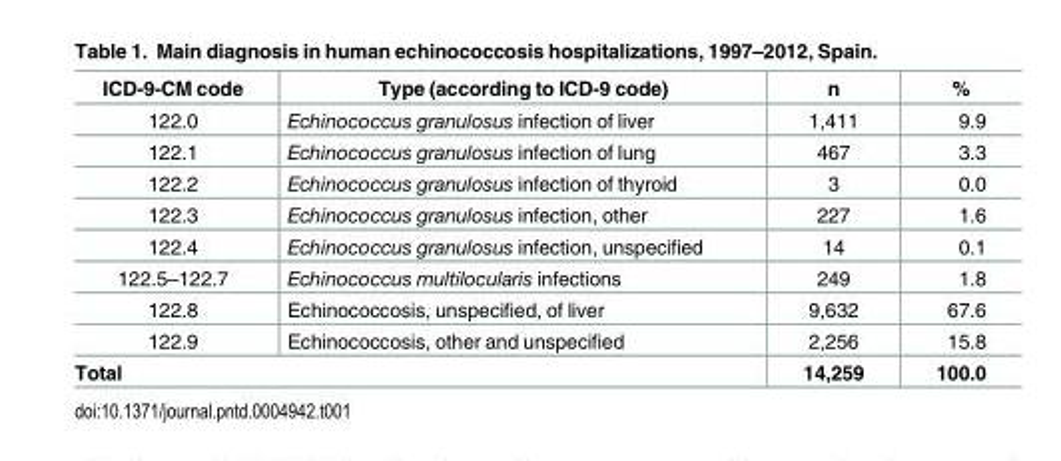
<table><thead><tr><td>ICD-9-CM code</td><td>Type (according to ICD-9 code)</td><td>n</td><td>%</td></tr></thead><tbody><tr><td>122.0</td><td>Echinococcus granulosus infection of liver</td><td>1,411</td><td>9.9</td></tr><tr><td>122.1</td><td>Echinococcus granulosus infection of lung</td><td>467</td><td>3.3</td></tr><tr><td>122.2</td><td>Echinococcus granulosus infection of thyroid</td><td>3</td><td>0.0</td></tr><tr><td>122.3</td><td>Echinococcus granulosus infection, other</td><td>227</td><td>1.6</td></tr><tr><td>122.4</td><td>Echinococcus granulosus infection, unspecified</td><td>14</td><td>0.1</td></tr><tr><td>122.5–122.7</td><td>Echinococcus multilocularis infections</td><td>249</td><td>1.8</td></tr><tr><td>122.8</td><td>Echinococcosis, unspecified, of liver</td><td>9,632</td><td>67.6</td></tr><tr><td>122.9</td><td>Echinococcosis, other and unspecified</td><td>2,256</td><td>15.8</td></tr><tr><td colspan="2">Total</td><td>14,259</td><td>100.0</td></tr></tbody></table>